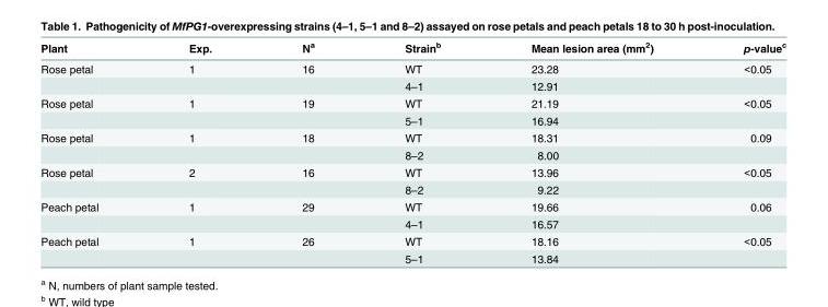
<table><thead><tr><td>Plant</td><td>Exp.</td><td>N<sup>a</sup></td><td>Strain<sup>b</sup></td><td>Mean lesion area (mm<sup>2</sup>)</td><td>p-value<sup>c</sup></td></tr></thead><tbody><tr><td rowspan="2">Rose petal</td><td>1</td><td>16</td><td>WT</td><td>23.28</td><td>&lt;0.05</td></tr><tr><td></td><td></td><td>4–1</td><td>12.91</td><td></td></tr><tr><td rowspan="2">Rose petal</td><td>1</td><td>19</td><td>WT</td><td>21.19</td><td>&lt;0.05</td></tr><tr><td></td><td></td><td>5–1</td><td>16.94</td><td></td></tr><tr><td rowspan="2">Rose petal</td><td>1</td><td>18</td><td>WT</td><td>18.31</td><td>0.09</td></tr><tr><td></td><td></td><td>8–2</td><td>8.00</td><td></td></tr><tr><td rowspan="2">Rose petal</td><td>2</td><td>16</td><td>WT</td><td>13.96</td><td>&lt;0.05</td></tr><tr><td></td><td></td><td>8–2</td><td>9.22</td><td></td></tr><tr><td rowspan="2">Peach petal</td><td>1</td><td>29</td><td>WT</td><td>19.66</td><td>0.06</td></tr><tr><td></td><td></td><td>4–1</td><td>16.57</td><td></td></tr><tr><td rowspan="2">Peach petal</td><td>1</td><td>26</td><td>WT</td><td>18.16</td><td>&lt;0.05</td></tr><tr><td></td><td></td><td>5–1</td><td>13.84</td><td></td></tr></tbody></table>